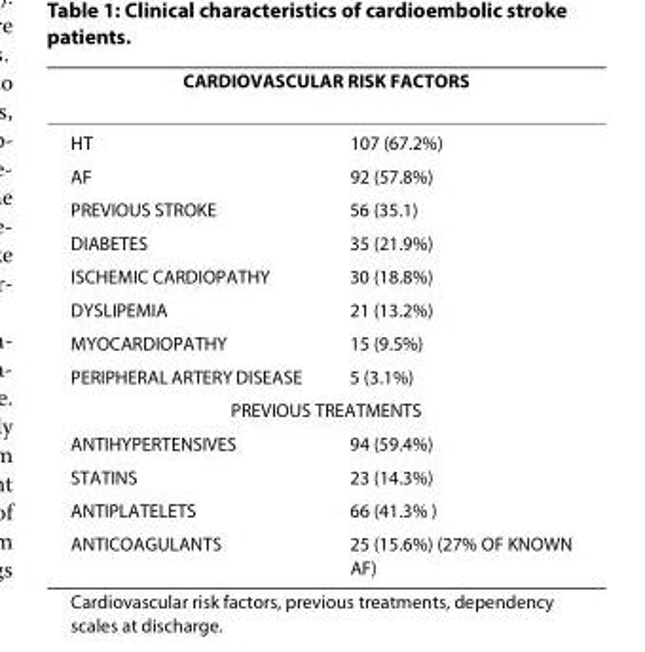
<table><thead><tr><td colspan="2">CARDIOVASCULAR RISK FACTORS</td></tr><tr><td>HT</td><td>107 (67.2%)</td></tr></thead><tbody><tr><td>AF</td><td>92 (57.8%)</td></tr><tr><td>PREVIOUS STROKE</td><td>56 (35.1)</td></tr><tr><td>DIABETES</td><td>35 (21.9%)</td></tr><tr><td>ISCHEMIC CARDIOPATHY</td><td>30 (18.8%)</td></tr><tr><td>DYSLIPEMIA</td><td>21 (13.2%)</td></tr><tr><td>MYOCARDIOPATHY</td><td>15 (9.5%)</td></tr><tr><td>PERIPHERAL ARTERY DISEASE</td><td>5 (3.1%)</td></tr><tr><td colspan="2">PREVIOUS TREATMENTS</td></tr><tr><td>ANTIHYPERTENSIVES</td><td>94 (59.4%)</td></tr><tr><td>STATINS</td><td>23 (14.3%)</td></tr><tr><td>ANTIPLATELETS</td><td>66 (41.3% )</td></tr><tr><td>ANTICOAGULANTS</td><td>25 (15.6%) (27% OF KNOWN AF)</td></tr></tbody></table>